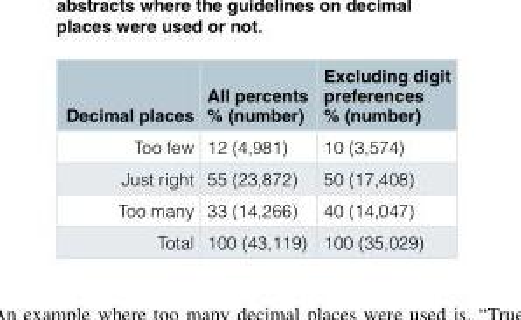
<table><thead><tr><td>Decimal places</td><td>All percents % (number)</td><td>Excluding digit preferences % (number)</td></tr></thead><tbody><tr><td>Too few</td><td>12 (4,981)</td><td>10 (3,574)</td></tr><tr><td>Just right</td><td>55 (23,872)</td><td>50 (17,408)</td></tr><tr><td>Too many</td><td>33 (14,266)</td><td>40 (14,047)</td></tr><tr><td>Total</td><td>100 (43,119)</td><td>100 (35,029)</td></tr></tbody></table>